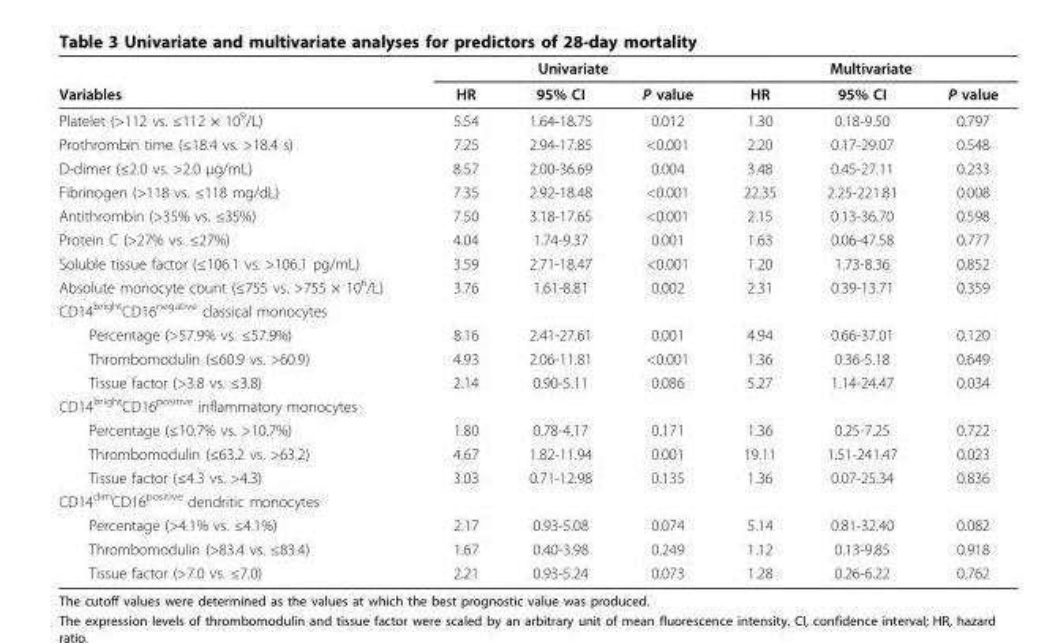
<table><thead><tr><td rowspan="2">Variables</td><td colspan="3">Univariate</td><td colspan="3">Multivariate</td></tr><tr><td>HR</td><td>95% CI</td><td>P value</td><td>HR</td><td>95% CI</td><td>P value</td></tr></thead><tbody><tr><td>Platelet (&gt;112 vs. ≤112 × 10<sup>9</sup>/L)</td><td>5.54</td><td>1.64-18.75</td><td>0.012</td><td>1.30</td><td>0.18-9.50</td><td>0.797</td></tr><tr><td>Prothrombin time (≤18.4 vs. &gt;18.4 s)</td><td>7.25</td><td>2.94-17.85</td><td>&lt;0.001</td><td>2.20</td><td>0.17-29.07</td><td>0.548</td></tr><tr><td>D-dimer (≤2.0 vs. &gt;2.0 μg/mL)</td><td>8.57</td><td>2.00-36.69</td><td>0.004</td><td>3.48</td><td>0.45-27.11</td><td>0.233</td></tr><tr><td>Fibrinogen (&gt;118 vs. ≤118 mg/dL)</td><td>7.35</td><td>2.92-18.48</td><td>&lt;0.001</td><td>22.35</td><td>2.25-221.81</td><td>0.008</td></tr><tr><td>Antithrombin (&gt;35% vs. ≤35%)</td><td>7.50</td><td>3.18-17.65</td><td>&lt;0.001</td><td>2.15</td><td>0.13-36.70</td><td>0.598</td></tr><tr><td>Protein C (&gt;27% vs. ≤27%)</td><td>4.04</td><td>1.74-9.37</td><td>0.001</td><td>1.63</td><td>0.06-47.58</td><td>0.777</td></tr><tr><td>Soluble tissue factor (≤106.1 vs. &gt;106.1 pg/mL)</td><td>3.59</td><td>2.71-18.47</td><td>&lt;0.001</td><td>1.20</td><td>1.73-8.36</td><td>0.852</td></tr><tr><td>Absolute monocyte count (≤755 vs. &gt;755 × 10<sup>6</sup>/L)</td><td>3.76</td><td>1.61-8.81</td><td>0.002</td><td>2.31</td><td>0.39-13.71</td><td>0.359</td></tr><tr><td colspan="7">CD14<sup>bright</sup>CD16<sup>negative</sup> classical monocytes</td></tr><tr><td>Percentage (&gt;57.9% vs. ≤57.9%)</td><td>8.16</td><td>2.41-27.61</td><td>0.001</td><td>4.94</td><td>0.66-37.01</td><td>0.120</td></tr><tr><td>Thrombomodulin (≤60.9 vs. &gt;60.9)</td><td>4.93</td><td>2.06-11.81</td><td>&lt;0.001</td><td>1.36</td><td>0.36-5.18</td><td>0.649</td></tr><tr><td>Tissue factor (&gt;3.8 vs. ≤3.8)</td><td>2.14</td><td>0.90-5.11</td><td>0.086</td><td>5.27</td><td>1.14-24.47</td><td>0.034</td></tr><tr><td colspan="7">CD14<sup>bright</sup>CD16<sup>positive</sup> inflammatory monocytes</td></tr><tr><td>Percentage (≤10.7% vs. &gt;10.7%)</td><td>1.80</td><td>0.78-4.17</td><td>0.171</td><td>1.36</td><td>0.25-7.25</td><td>0.722</td></tr><tr><td>Thrombomodulin (≤63.2 vs. &gt;63.2)</td><td>4.67</td><td>1.82-11.94</td><td>0.001</td><td>19.11</td><td>1.51-241.47</td><td>0.023</td></tr><tr><td>Tissue factor (≤4.3 vs. &gt;4.3)</td><td>3.03</td><td>0.71-12.98</td><td>0.135</td><td>1.36</td><td>0.07-25.34</td><td>0.836</td></tr><tr><td colspan="7">CD14<sup>dim</sup>CD16<sup>positive</sup> dendritic monocytes</td></tr><tr><td>Percentage (&gt;4.1% vs. ≤4.1%)</td><td>2.17</td><td>0.93-5.08</td><td>0.074</td><td>5.14</td><td>0.81-32.40</td><td>0.082</td></tr><tr><td>Thrombomodulin (&gt;83.4 vs. ≤83.4)</td><td>1.67</td><td>0.40-3.98</td><td>0.249</td><td>1.12</td><td>0.13-9.85</td><td>0.918</td></tr><tr><td>Tissue factor (&gt;7.0 vs. ≤7.0)</td><td>2.21</td><td>0.93-5.24</td><td>0.073</td><td>1.28</td><td>0.26-6.22</td><td>0.762</td></tr></tbody></table>